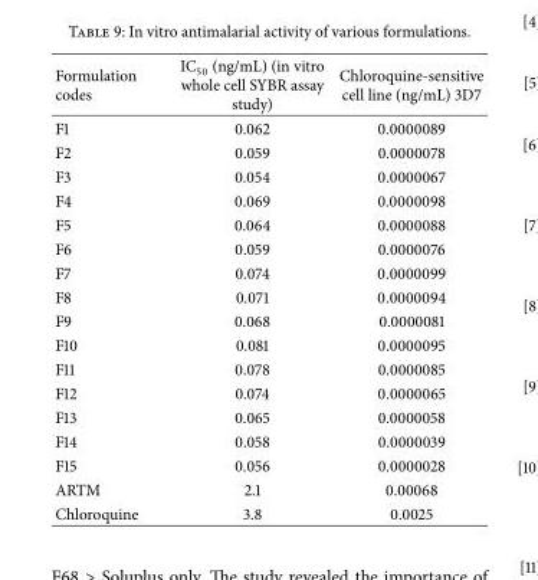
<table><thead><tr><td>Formulation codes</td><td>IC<sub>50</sub> (ng/mL) (in vitro whole cell SYBR assay study)</td><td>Chloroquine-sensitive cell line (ng/mL) 3D7</td></tr></thead><tbody><tr><td>F1</td><td>0.062</td><td>0.0000089</td></tr><tr><td>F2</td><td>0.059</td><td>0.0000078</td></tr><tr><td>F3</td><td>0.054</td><td>0.0000067</td></tr><tr><td>F4</td><td>0.069</td><td>0.0000098</td></tr><tr><td>F5</td><td>0.064</td><td>0.0000088</td></tr><tr><td>F6</td><td>0.059</td><td>0.0000076</td></tr><tr><td>F7</td><td>0.074</td><td>0.0000099</td></tr><tr><td>F8</td><td>0.071</td><td>0.0000094</td></tr><tr><td>F9</td><td>0.068</td><td>0.0000081</td></tr><tr><td>F10</td><td>0.081</td><td>0.0000095</td></tr><tr><td>F11</td><td>0.078</td><td>0.0000085</td></tr><tr><td>F12</td><td>0.074</td><td>0.0000065</td></tr><tr><td>F13</td><td>0.065</td><td>0.0000058</td></tr><tr><td>F14</td><td>0.058</td><td>0.0000039</td></tr><tr><td>F15</td><td>0.056</td><td>0.0000028</td></tr><tr><td>ARTM</td><td>2.1</td><td>0.00068</td></tr><tr><td>Chloroquine</td><td>3.8</td><td>0.0025</td></tr></tbody></table>